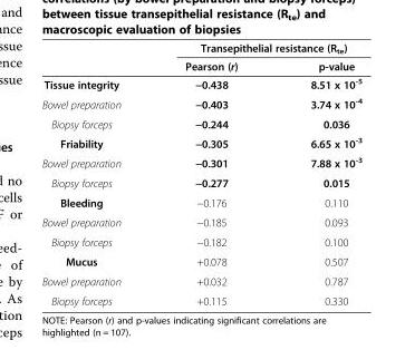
<table><thead><tr><td rowspan="2"></td><td colspan="2">Transepithelial resistance (R<sub>te</sub>)</td></tr><tr><td>Pearson (r)</td><td>p-value</td></tr></thead><tbody><tr><td>Tissue integrity</td><td>−0.438</td><td>8.51 x 10<sup>-5</sup></td></tr><tr><td>Bowel preparation</td><td>−0.403</td><td>3.74 x 10<sup>-4</sup></td></tr><tr><td>Biopsy forceps</td><td>−0.244</td><td>0.036</td></tr><tr><td>Friability</td><td>−0.305</td><td>6.65 x 10<sup>-3</sup></td></tr><tr><td>Bowel preparation</td><td>−0.301</td><td>7.88 x 10<sup>-3</sup></td></tr><tr><td>Biopsy forceps</td><td>−0.277</td><td>0.015</td></tr><tr><td>Bleeding</td><td>−0.176</td><td>0.110</td></tr><tr><td>Bowel preparation</td><td>−0.185</td><td>0.093</td></tr><tr><td>Biopsy forceps</td><td>−0.182</td><td>0.100</td></tr><tr><td>Mucus</td><td>+0.078</td><td>0.507</td></tr><tr><td>Bowel preparation</td><td>+0.032</td><td>0.787</td></tr><tr><td>Biopsy forceps</td><td>+0.115</td><td>0.330</td></tr></tbody></table>